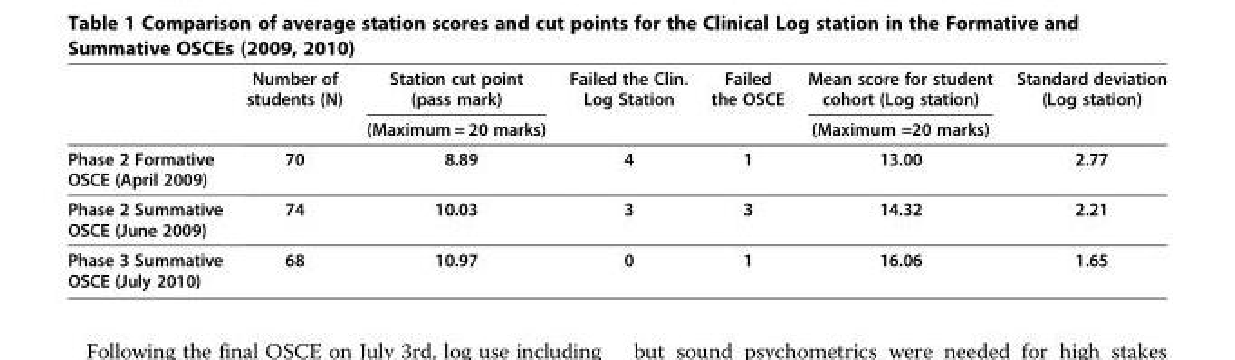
<table><thead><tr><td rowspan="2"></td><td rowspan="2">Number of students (N)</td><td rowspan="2">Station cut point (pass mark) (Maximum = 20 marks)</td><td rowspan="2">Failed the Clin. Log Station</td><td rowspan="2">Failed the OSCE</td><td rowspan="2">Mean score for student cohort (Log station) (Maximum =20 marks)</td><td rowspan="2">Standard deviation (Log station)</td></tr><tr></tr></thead><tbody><tr><td>Phase 2 Formative OSCE (April 2009)</td><td>70</td><td>8.89</td><td>4</td><td>1</td><td>13.00</td><td>2.77</td></tr><tr><td>Phase 2 Summative OSCE (June 2009)</td><td>74</td><td>10.03</td><td>3</td><td>3</td><td>14.32</td><td>2.21</td></tr><tr><td>Phase 3 Summative OSCE (July 2010)</td><td>68</td><td>10.97</td><td>0</td><td>1</td><td>16.06</td><td>1.65</td></tr></tbody></table>